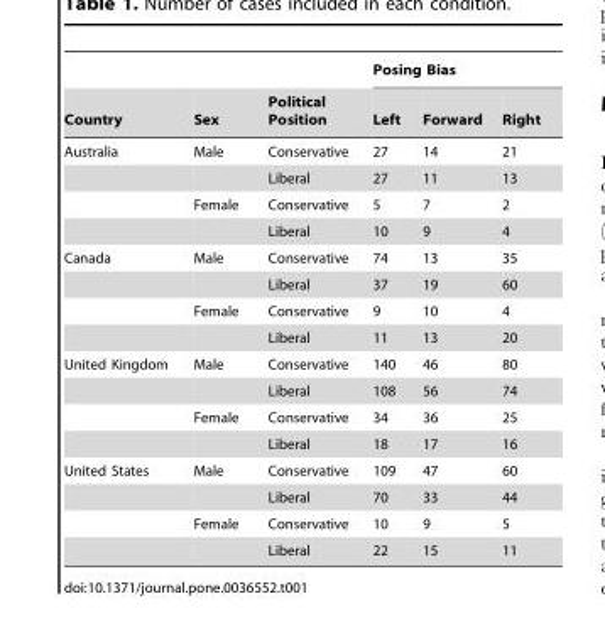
<table><thead><tr><td rowspan="2">Country</td><td rowspan="2">Sex</td><td rowspan="2">Political Position</td><td colspan="3">Posing Bias</td></tr><tr><td>Left</td><td>Forward</td><td>Right</td></tr></thead><tbody><tr><td rowspan="4">Australia</td><td>Male</td><td>Conservative</td><td>27</td><td>14</td><td>21</td></tr><tr><td></td><td>Liberal</td><td>27</td><td>11</td><td>13</td></tr><tr><td>Female</td><td>Conservative</td><td>5</td><td>7</td><td>2</td></tr><tr><td></td><td>Liberal</td><td>10</td><td>9</td><td>4</td></tr><tr><td rowspan="4">Canada</td><td>Male</td><td>Conservative</td><td>74</td><td>13</td><td>35</td></tr><tr><td></td><td>Liberal</td><td>37</td><td>19</td><td>60</td></tr><tr><td>Female</td><td>Conservative</td><td>9</td><td>10</td><td>4</td></tr><tr><td></td><td>Liberal</td><td>11</td><td>13</td><td>20</td></tr><tr><td rowspan="4">United Kingdom</td><td>Male</td><td>Conservative</td><td>140</td><td>46</td><td>80</td></tr><tr><td></td><td>Liberal</td><td>108</td><td>56</td><td>74</td></tr><tr><td>Female</td><td>Conservative</td><td>34</td><td>36</td><td>25</td></tr><tr><td></td><td>Liberal</td><td>18</td><td>17</td><td>16</td></tr><tr><td rowspan="4">United States</td><td>Male</td><td>Conservative</td><td>109</td><td>47</td><td>60</td></tr><tr><td></td><td>Liberal</td><td>70</td><td>33</td><td>44</td></tr><tr><td>Female</td><td>Conservative</td><td>10</td><td>9</td><td>5</td></tr><tr><td></td><td>Liberal</td><td>22</td><td>15</td><td>11</td></tr></tbody></table>